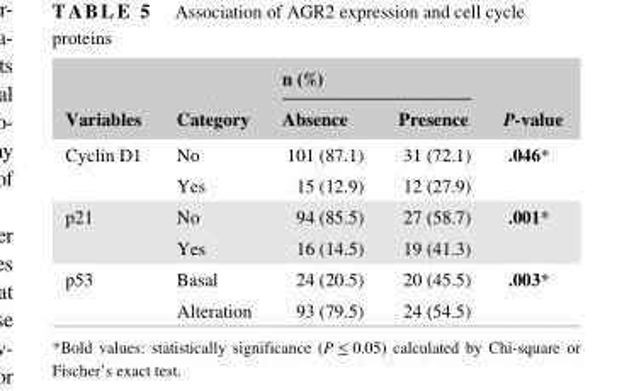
<table><thead><tr><td rowspan="2">Variables</td><td rowspan="2">Category</td><td colspan="2">n (%)</td><td rowspan="2">P- value</td></tr><tr><td>Absence</td><td>Presence</td></tr></thead><tbody><tr><td rowspan="2">Cyclin D1</td><td>No</td><td>101 (87.1)</td><td>31 (72.1)</td><td rowspan="2">.046*</td></tr><tr><td>Yes</td><td>15 (12.9)</td><td>12 (27.9)</td></tr><tr><td rowspan="2">p21</td><td>No</td><td>94 (85.5)</td><td>27 (58.7)</td><td rowspan="2">.001*</td></tr><tr><td>Yes</td><td>16 (14.5)</td><td>19 (41.3)</td></tr><tr><td rowspan="2">p53</td><td>Basal</td><td>24 (20.5)</td><td>20 (45.5)</td><td rowspan="2">.003*</td></tr><tr><td>Alteration</td><td>93 (79.5)</td><td>24 (54.5)</td></tr></tbody></table>